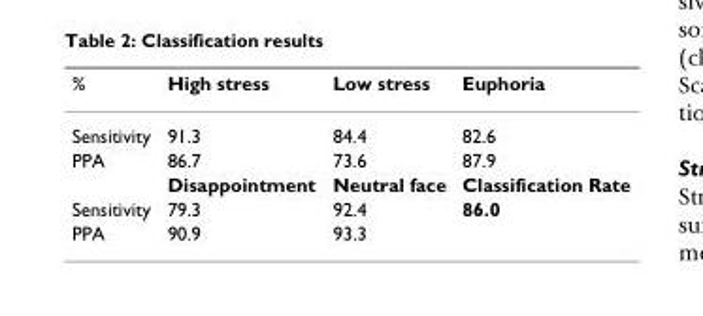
<table><thead><tr><td>%</td><td>High stress</td><td>Low stress</td><td>Euphoria</td></tr></thead><tbody><tr><td>Sensitivity</td><td>91.3</td><td>84.4</td><td>82.6</td></tr><tr><td rowspan="2">PPA</td><td>86.7</td><td>73.6</td><td>87.9</td></tr><tr><td>Disappointment</td><td>Neutral face</td><td>Classification Rate</td></tr><tr><td>Sensitivity</td><td>79.3</td><td>92.4</td><td>86.0</td></tr><tr><td>PPA</td><td>90.9</td><td>93.3</td><td></td></tr></tbody></table>